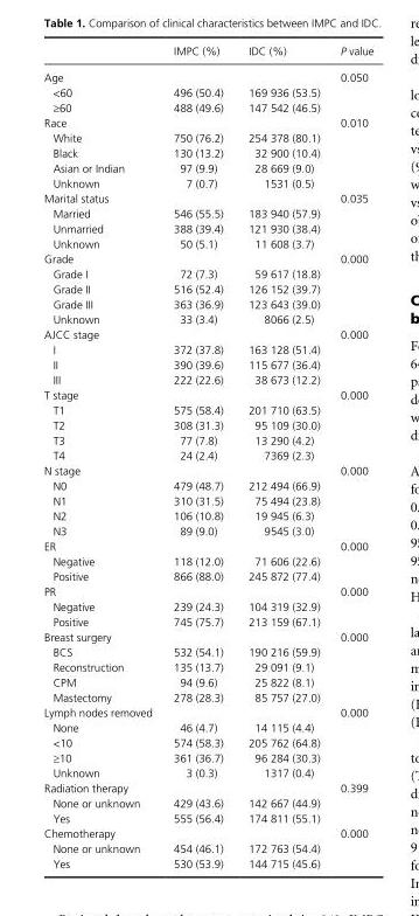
<table><thead><tr><td></td><td>IMPC (%)</td><td>IDC (%)</td><td>P value</td></tr></thead><tbody><tr><td>Age</td><td></td><td></td><td>0.050</td></tr><tr><td>&lt;60</td><td>496 (50.4)</td><td>169 936 (53.5)</td><td></td></tr><tr><td>≥60</td><td>488 (49.6)</td><td>147 542 (46.5)</td><td></td></tr><tr><td>Race</td><td></td><td></td><td>0.010</td></tr><tr><td>White</td><td>750 (76.2)</td><td>254 378 (80.1)</td><td></td></tr><tr><td>Black</td><td>130 (13.2)</td><td>32 900 (10.4)</td><td></td></tr><tr><td>Asian or Indian</td><td>97 (9.9)</td><td>28 669 (9.0)</td><td></td></tr><tr><td>Unknown</td><td>7 (0.7)</td><td>1531 (0.5)</td><td></td></tr><tr><td>Marital status</td><td></td><td></td><td>0.035</td></tr><tr><td>Married</td><td>546 (55.5)</td><td>183 940 (57.9)</td><td></td></tr><tr><td>Unmarried</td><td>388 (39.4)</td><td>121 930 (38.4)</td><td></td></tr><tr><td>Unknown</td><td>50 (5.1)</td><td>11 608 (3.7)</td><td></td></tr><tr><td>Grade</td><td></td><td></td><td>0.000</td></tr><tr><td>Grade I</td><td>72 (7.3)</td><td>59 617 (18.8)</td><td></td></tr><tr><td>Grade II</td><td>516 (52.4)</td><td>126 152 (39.7)</td><td></td></tr><tr><td>Grade III</td><td>363 (36.9)</td><td>123 643 (39.0)</td><td></td></tr><tr><td>Unknown</td><td>33 (3.4)</td><td>8066 (2.5)</td><td></td></tr><tr><td>AJCC stage</td><td></td><td></td><td>0.000</td></tr><tr><td>I</td><td>372 (37.8)</td><td>163 128 (51.4)</td><td></td></tr><tr><td>II</td><td>390 (39.6)</td><td>115 677 (36.4)</td><td></td></tr><tr><td>III</td><td>222 (22.6)</td><td>38 673 (12.2)</td><td></td></tr><tr><td>T stage</td><td></td><td></td><td>0.000</td></tr><tr><td>T1</td><td>575 (58.4)</td><td>201 710 (63.5)</td><td></td></tr><tr><td>T2</td><td>308 (31.3)</td><td>95 109 (30.0)</td><td></td></tr><tr><td>T3</td><td>77 (7.8)</td><td>13 290 (4.2)</td><td></td></tr><tr><td>T4</td><td>24 (2.4)</td><td>7369 (2.3)</td><td></td></tr><tr><td>N stage</td><td></td><td></td><td>0.000</td></tr><tr><td>N0</td><td>479 (48.7)</td><td>212 494 (66.9)</td><td></td></tr><tr><td>N1</td><td>310 (31.5)</td><td>75 494 (23.8)</td><td></td></tr><tr><td>N2</td><td>106 (10.8)</td><td>19 945 (6.3)</td><td></td></tr><tr><td>N3</td><td>89 (9.0)</td><td>9545 (3.0)</td><td></td></tr><tr><td>ER</td><td></td><td></td><td>0.000</td></tr><tr><td>Negative</td><td>118 (12.0)</td><td>71 606 (22.6)</td><td></td></tr><tr><td>Positive</td><td>866 (88.0)</td><td>245 872 (77.4)</td><td></td></tr><tr><td>PR</td><td></td><td></td><td>0.000</td></tr><tr><td>Negative</td><td>239 (24.3)</td><td>104 319 (32.9)</td><td></td></tr><tr><td>Positive</td><td>745 (75.7)</td><td>213 159 (67.1)</td><td></td></tr><tr><td>Breast surgery</td><td></td><td></td><td>0.000</td></tr><tr><td>BCS</td><td>532 (54.1)</td><td>190 216 (59.9)</td><td></td></tr><tr><td>Reconstruction</td><td>135 (13.7)</td><td>29 091 (9.1)</td><td></td></tr><tr><td>CPM</td><td>94 (9.6)</td><td>25 822 (8.1)</td><td></td></tr><tr><td>Mastectomy</td><td>278 (28.3)</td><td>85 757 (27.0)</td><td></td></tr><tr><td>Lymph nodes removed</td><td></td><td></td><td>0.000</td></tr><tr><td>None</td><td>46 (4.7)</td><td>14 115 (4.4)</td><td></td></tr><tr><td>&lt;10</td><td>574 (58.3)</td><td>205 762 (64.8)</td><td></td></tr><tr><td>≥10</td><td>361 (36.7)</td><td>96 284 (30.3)</td><td></td></tr><tr><td>Unknown</td><td>3 (0.3)</td><td>1317 (0.4)</td><td></td></tr><tr><td>Radiation therapy</td><td></td><td></td><td>0.399</td></tr><tr><td>None or unknown</td><td>429 (43.6)</td><td>142 667 (44.9)</td><td></td></tr><tr><td>Yes</td><td>555 (56.4)</td><td>174 811 (55.1)</td><td></td></tr><tr><td>Chemotherapy</td><td></td><td></td><td>0.000</td></tr><tr><td>None or unknown</td><td>454 (46.1)</td><td>172 763 (54.4)</td><td></td></tr><tr><td>Yes</td><td>530 (53.9)</td><td>144 715 (45.6)</td><td></td></tr></tbody></table>